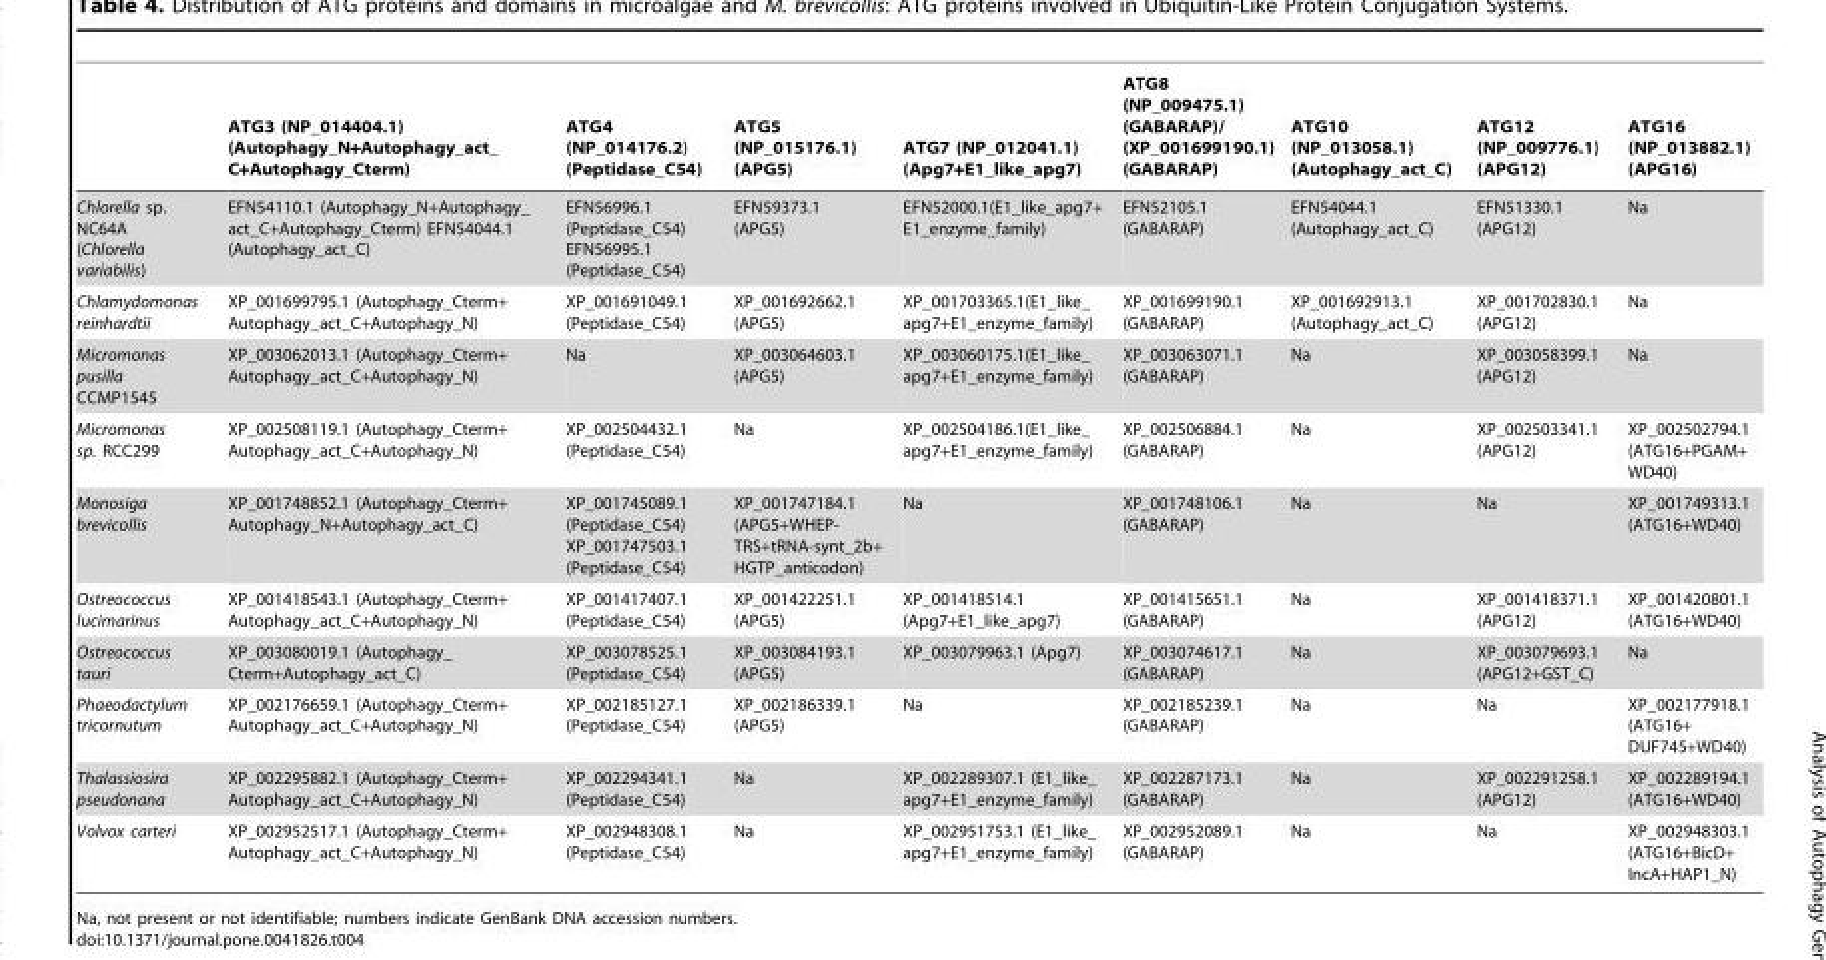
<table><thead><tr><td></td><td>ATG3 (NP_014404.1) (Autophagy_N+Autophagy_act_ C+Autophagy_Cterm)</td><td>ATG4 (NP_014176.2) (Peptidase_C54)</td><td>ATG5 (NP_015176.1) (APG5)</td><td>ATG7 (NP_012041.1) (Apg7+E1_like_apg7)</td><td>ATG8 (NP_009475.1) (GABARAP)/ (XP_001699190.1) (GABARAP)</td><td>ATG10 (NP_013058.1) (Autophagy_act_C)</td><td>ATG12 (NP_009776.1) (APG12)</td><td>ATG16 (NP_013882.1) (APG16)</td></tr></thead><tbody><tr><td>Chlorella sp. NC64A (Chlorella variabilis)</td><td>EFN54110.1 (Autophagy_N+Autophagy_ act_C+Autophagy_Cterm) EFN54044.1 (Autophagy_act_C)</td><td>EFN56996.1 (Peptidase_C54) EFN56995.1 (Peptidase_C54)</td><td>EFN59373.1 (APG5)</td><td>EFN52000.1(E1_like_apg7+ E1_enzyme_family)</td><td>EFN52105.1 (GABARAP)</td><td>EFN54044.1 (Autophagy_act_C)</td><td>EFN51330.1 (APG12)</td><td>Na</td></tr><tr><td>Chlamydomonas reinhardtii</td><td>XP_001699795.1 (Autophagy_Cterm+ Autophagy_act_C+Autophagy_N)</td><td>XP_001691049.1 (Peptidase_C54)</td><td>XP_001692662.1 (APG5)</td><td>XP_001703365.1(E1_like_ apg7+E1_enzyme_family)</td><td>XP_001699190.1 (GABARAP)</td><td>XP_001692913.1 (Autophagy_act_C)</td><td>XP_001702830.1 (APG12)</td><td>Na</td></tr><tr><td>Micromonas pusilla CCMP1545</td><td>XP_003062013.1 (Autophagy_Cterm+ Autophagy_act_C+Autophagy_N)</td><td>Na</td><td>XP_003064603.1 (APG5)</td><td>XP_003060175.1(E1_like_ apg7+E1_enzyme_family)</td><td>XP_003063071.1 (GABARAP)</td><td>Na</td><td>XP_003058399.1 (APG12)</td><td>Na</td></tr><tr><td>Micromonas sp. RCC299</td><td>XP_002508119.1 (Autophagy_Cterm+ Autophagy_act_C+Autophagy_N)</td><td>XP_002504432.1 (Peptidase_C54)</td><td>Na</td><td>XP_002504186.1(E1_like_ apg7+E1_enzyme_family)</td><td>XP_002506884.1 (GABARAP)</td><td>Na</td><td>XP_002503341.1 (APG12)</td><td>XP_002502794.1 (ATG16+PGAM+ WD40)</td></tr><tr><td>Monosiga brevicollis</td><td>XP_001748852.1 (Autophagy_Cterm+ Autophagy_N+Autophagy_act_C)</td><td>XP_001745089.1 (Peptidase_C54) XP_001747503.1 (Peptidase_C54)</td><td>XP_001747184.1 (APG5+WHEP- TRS+tRNA-synt_2b+ HGTP_anticodon)</td><td>Na</td><td>XP_001748106.1 (GABARAP)</td><td>Na</td><td>Na</td><td>XP_001749313.1 (ATG16+WD40)</td></tr><tr><td>Ostreococcus lucimarinus</td><td>XP_001418543.1 (Autophagy_Cterm+ Autophagy_act_C+Autophagy_N)</td><td>XP_001417407.1 (Peptidase_C54)</td><td>XP_001422251.1 (APG5)</td><td>XP_001418514.1 (Apg7+E1_like_apg7)</td><td>XP_001415651.1 (GABARAP)</td><td>Na</td><td>XP_001418371.1 (APG12)</td><td>XP_001420801.1 (ATG16+WD40)</td></tr><tr><td>Ostreococcus tauri</td><td>XP_003080019.1 (Autophagy_ Cterm+Autophagy_act_C)</td><td>XP_003078525.1 (Peptidase_C54)</td><td>XP_003084193.1 (APG5)</td><td>XP_003079963.1 (Apg7)</td><td>XP_003074617.1 (GABARAP)</td><td>Na</td><td>XP_003079693.1 (APG12+GST_C)</td><td>Na</td></tr><tr><td>Phaeodactylum tricornutum</td><td>XP_002176659.1 (Autophagy_Cterm+ Autophagy_act_C+Autophagy_N)</td><td>XP_002185127.1 (Peptidase_C54)</td><td>XP_002186339.1 (APG5)</td><td>Na</td><td>XP_002185239.1 (GABARAP)</td><td>Na</td><td>Na</td><td>XP_002177918.1 (ATG16+ DUF745+WD40)</td></tr><tr><td>Thalassiosira pseudonana</td><td>XP_002295882.1 (Autophagy_Cterm+ Autophagy_act_C+Autophagy_N)</td><td>XP_002294341.1 (Peptidase_C54)</td><td>Na</td><td>XP_002289307.1 (E1_like_ apg7+E1_enzyme_family)</td><td>XP_002287173.1 (GABARAP)</td><td>Na</td><td>XP_002291258.1 (APG12)</td><td>XP_002289194.1 (ATG16+WD40)</td></tr><tr><td>Volvox carteri</td><td>XP_002952517.1 (Autophagy_Cterm+ Autophagy_act_C+Autophagy_N)</td><td>XP_002948308.1 (Peptidase_C54)</td><td>Na</td><td>XP_002951753.1 (E1_like_ apg7+E1_enzyme_family)</td><td>XP_002952089.1 (GABARAP)</td><td>Na</td><td>Na</td><td>XP_002948303.1 (ATG16+BicD+ IncA+HAP1_N)</td></tr></tbody></table>